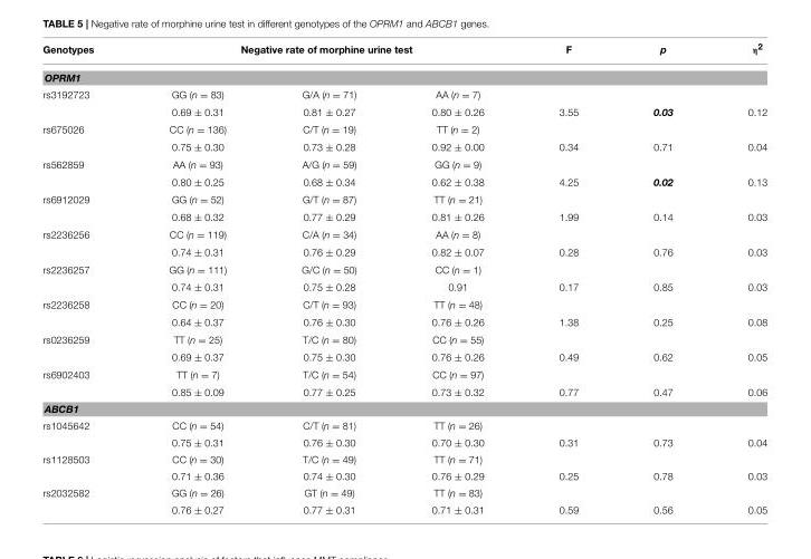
<table><thead><tr><td>Genotypes</td><td colspan="3">Negative rate of morphine urine test</td><td>F</td><td>p</td><td>η<sup>2</sup></td></tr><tr><td colspan="7">OPRM1</td></tr><tr><td>rs3192723</td><td>GG (n = 83)</td><td>G/A (n = 71)</td><td>AA (n = 7)</td><td></td><td></td><td></td></tr></thead><tbody><tr><td></td><td>0.69 ± 0.31</td><td>0.81 ± 0.27</td><td>0.80 ± 0.26</td><td>3.55</td><td>0.03</td><td>0.12</td></tr><tr><td rowspan="2">rs675026</td><td>CC (n = 136)</td><td>C/T (n = 19)</td><td>TT (n = 2)</td><td></td><td></td><td></td></tr><tr><td>0.75 ± 0.30</td><td>0.73 ± 0.28</td><td>0.92 ± 0.00</td><td>0.34</td><td>0.71</td><td>0.04</td></tr><tr><td rowspan="2">rs562859</td><td>AA (n = 93)</td><td>A/G (n = 59)</td><td>GG (n = 9)</td><td></td><td></td><td></td></tr><tr><td>0.80 ± 0.25</td><td>0.68 ± 0.34</td><td>0.62 ± 0.38</td><td>4.25</td><td>0.02</td><td>0.13</td></tr><tr><td rowspan="2">rs6912029</td><td>GG (n = 52)</td><td>G/T (n = 87)</td><td>TT (n = 21)</td><td></td><td></td><td></td></tr><tr><td>0.68 ± 0.32</td><td>0.77 ± 0.29</td><td>0.81 ± 0.26</td><td>1.99</td><td>0.14</td><td>0.03</td></tr><tr><td rowspan="2">rs2236256</td><td>CC (n = 119)</td><td>C/A (n = 34)</td><td>AA (n = 8)</td><td></td><td></td><td></td></tr><tr><td>0.74 ± 0.31</td><td>0.76 ± 0.29</td><td>0.82 ± 0.07</td><td>0.28</td><td>0.76</td><td>0.03</td></tr><tr><td rowspan="2">rs2236257</td><td>GG (n = 111)</td><td>G/C (n = 50)</td><td>CC (n = 1)</td><td></td><td></td><td></td></tr><tr><td>0.74 ± 0.31</td><td>0.75 ± 0.28</td><td>0.91</td><td>0.17</td><td>0.85</td><td>0.03</td></tr><tr><td rowspan="2">rs2236258</td><td>CC (n = 20)</td><td>C/T (n = 93)</td><td>TT (n = 48)</td><td></td><td></td><td></td></tr><tr><td>0.64 ± 0.37</td><td>0.76 ± 0.30</td><td>0.76 ± 0.26</td><td>1.38</td><td>0.25</td><td>0.08</td></tr><tr><td rowspan="2">rs0236259</td><td>TT (n = 25)</td><td>T/C (n = 80)</td><td>CC (n = 55)</td><td></td><td></td><td></td></tr><tr><td>0.69 ± 0.37</td><td>0.75 ± 0.30</td><td>0.76 ± 0.26</td><td>0.49</td><td>0.62</td><td>0.05</td></tr><tr><td rowspan="2">rs6902403</td><td>TT (n = 7)</td><td>T/C (n = 54)</td><td>CC (n = 97)</td><td></td><td></td><td></td></tr><tr><td>0.85 ± 0.09</td><td>0.77 ± 0.25</td><td>0.73 ± 0.32</td><td>0.77</td><td>0.47</td><td>0.06</td></tr><tr><td colspan="7">ABCB1</td></tr><tr><td rowspan="2">rs1045642</td><td>CC (n = 54)</td><td>C/T (n = 81)</td><td>TT (n = 26)</td><td></td><td></td><td></td></tr><tr><td>0.75 ± 0.31</td><td>0.76 ± 0.30</td><td>0.70 ± 0.30</td><td>0.31</td><td>0.73</td><td>0.04</td></tr><tr><td rowspan="2">rs1128503</td><td>CC (n = 30)</td><td>T/C (n = 49)</td><td>TT (n = 71)</td><td></td><td></td><td></td></tr><tr><td>0.71 ± 0.36</td><td>0.74 ± 0.30</td><td>0.76 ± 0.29</td><td>0.25</td><td>0.78</td><td>0.03</td></tr><tr><td rowspan="2">rs2032582</td><td>GG (n = 26)</td><td>GT (n = 49)</td><td>TT (n = 83)</td><td></td><td></td><td></td></tr><tr><td>0.76 ± 0.27</td><td>0.77 ± 0.31</td><td>0.71 ± 0.31</td><td>0.59</td><td>0.56</td><td>0.05</td></tr></tbody></table>